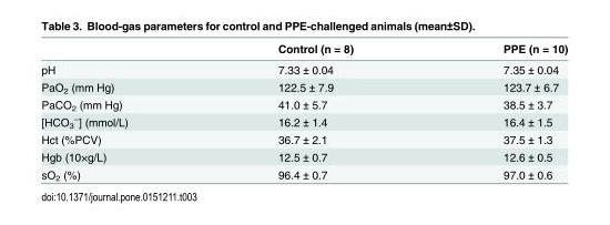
<table><thead><tr><td></td><td>Control (n = 8)</td><td>PPE (n = 10)</td></tr></thead><tbody><tr><td>pH</td><td>7.33 ± 0.04</td><td>7.35 ± 0.04</td></tr><tr><td>PaO<sub>2</sub> (mm Hg)</td><td>122.5 ± 7.9</td><td>123.7 ± 6.7</td></tr><tr><td>PaCO<sub>2</sub> (mm Hg)</td><td>41.0 ± 5.7</td><td>38.5 ± 3.7</td></tr><tr><td>[HCO<sub>3</sub> <sup>−</sup>] (mmol/L)</td><td>16.2 ± 1.4</td><td>16.4 ± 1.5</td></tr><tr><td>Hct (%PCV)</td><td>36.7 ± 2.1</td><td>37.5 ± 1.3</td></tr><tr><td>Hgb (10×g/L)</td><td>12.5 ± 0.7</td><td>12.6 ± 0.5</td></tr><tr><td>sO<sub>2</sub> (%)</td><td>96.4 ± 0.7</td><td>97.0 ± 0.6</td></tr></tbody></table>